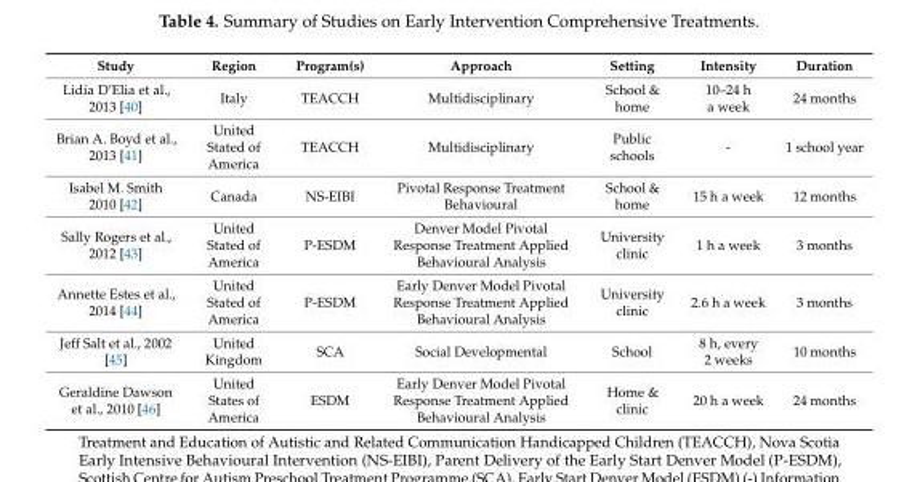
<table><thead><tr><td>Study</td><td>Region</td><td>Program(s)</td><td>Approach</td><td>Setting</td><td>Intensity</td><td>Duration</td></tr></thead><tbody><tr><td>Lidia D’Elia et al., 2013 [40]</td><td>Italy</td><td>TEACCH</td><td>Multidisciplinary</td><td>School &amp; home</td><td>10–24 h a week</td><td>24 months</td></tr><tr><td>Brian A. Boyd et al., 2013 [41]</td><td>United Stated of America</td><td>TEACCH</td><td>Multidisciplinary</td><td>Public schools</td><td>-</td><td>1 school year</td></tr><tr><td>Isabel M. Smith 2010 [42]</td><td>Canada</td><td>NS-EIBI</td><td>Pivotal Response Treatment Behavioural</td><td>School &amp; home</td><td>15 h a week</td><td>12 months</td></tr><tr><td>Sally Rogers et al., 2012 [43]</td><td>United Stated of America</td><td>P-ESDM</td><td>Denver Model Pivotal Response Treatment Applied Behavioural Analysis</td><td>University clinic</td><td>1 h a week</td><td>3 months</td></tr><tr><td>Annette Estes et al., 2014 [44]</td><td>United Stated of America</td><td>P-ESDM</td><td>Early Denver Model Pivotal Response Treatment Applied Behavioural Analysis</td><td>University clinic</td><td>2.6 h a week</td><td>3 months</td></tr><tr><td>Jeff Salt et al., 2002 [45]</td><td>United Kingdom</td><td>SCA</td><td>Social Developmental</td><td>School</td><td>8 h, every 2 weeks</td><td>10 months</td></tr><tr><td>Geraldine Dawson et al., 2010 [46]</td><td>United States of America</td><td>ESDM</td><td>Early Denver Model Pivotal Response Treatment Applied Behavioural Analysis</td><td>Home &amp; clinic</td><td>20 h a week</td><td>24 months</td></tr></tbody></table>